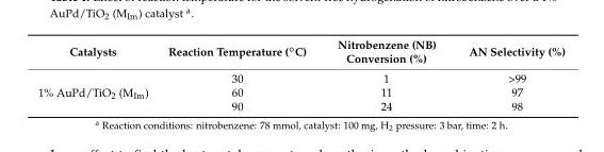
<table><thead><tr><td>Catalysts</td><td>Reaction Temperature (◦C)</td><td>Nitrobenzene (NB) Conversion (%)</td><td>AN Selectivity (%)</td></tr></thead><tbody><tr><td rowspan="3">1% AuPd/TiO2 (MIm)</td><td>30</td><td>1</td><td>&gt;99</td></tr><tr><td>60</td><td>11</td><td>97</td></tr><tr><td>90</td><td>24</td><td>98</td></tr></tbody></table>